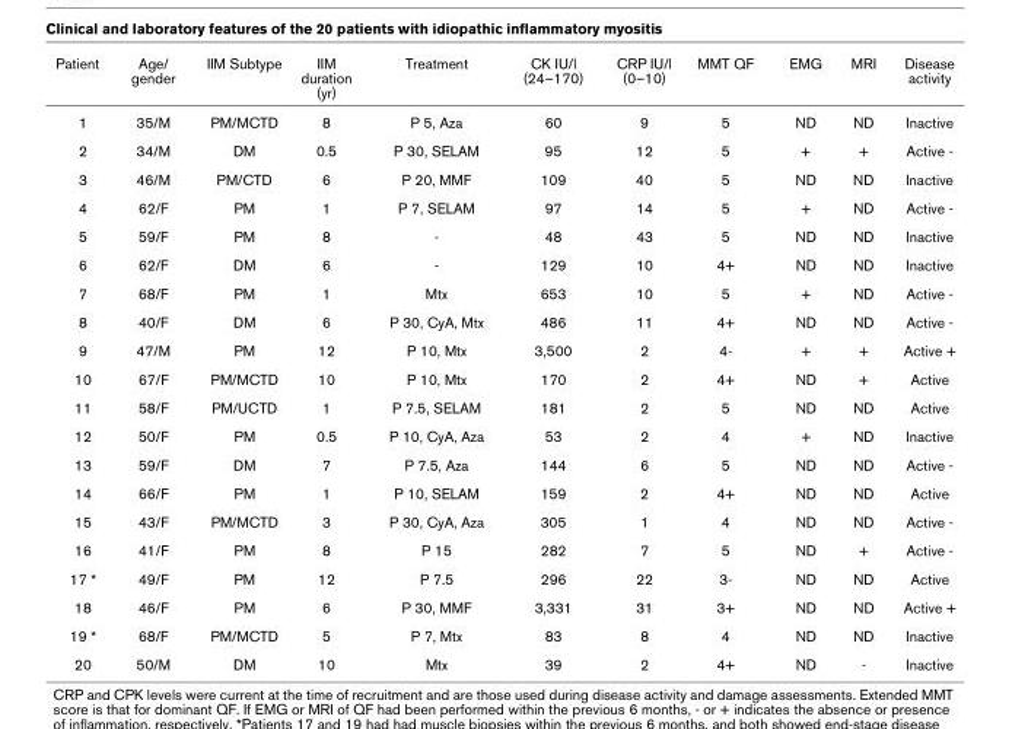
<table><thead><tr><td>Patient</td><td>Age/ gender</td><td>IIM Subtype</td><td>IIM duration (yr)</td><td>Treatment</td><td>CK IU/l (24–170)</td><td>CRP IU/l (0–10)</td><td>MMT QF</td><td>EMG</td><td>MRI</td><td>Disease activity</td></tr></thead><tbody><tr><td>1</td><td>35/M</td><td>PM/MCTD</td><td>8</td><td>P 5, Aza</td><td>60</td><td>9</td><td>5</td><td>ND</td><td>ND</td><td>Inactive</td></tr><tr><td>2</td><td>34/M</td><td>DM</td><td>0.5</td><td>P 30, SELAM</td><td>95</td><td>12</td><td>5</td><td>+</td><td>+</td><td>Active -</td></tr><tr><td>3</td><td>46/M</td><td>PM/CTD</td><td>6</td><td>P 20, MMF</td><td>109</td><td>40</td><td>5</td><td>ND</td><td>ND</td><td>Inactive</td></tr><tr><td>4</td><td>62/F</td><td>PM</td><td>1</td><td>P 7, SELAM</td><td>97</td><td>14</td><td>5</td><td>+</td><td>ND</td><td>Active -</td></tr><tr><td>5</td><td>59/F</td><td>PM</td><td>8</td><td>-</td><td>48</td><td>43</td><td>5</td><td>ND</td><td>ND</td><td>Inactive</td></tr><tr><td>6</td><td>62/F</td><td>DM</td><td>6</td><td>-</td><td>129</td><td>10</td><td>4+</td><td>ND</td><td>ND</td><td>Inactive</td></tr><tr><td>7</td><td>68/F</td><td>PM</td><td>1</td><td>Mtx</td><td>653</td><td>10</td><td>5</td><td>+</td><td>ND</td><td>Active -</td></tr><tr><td>8</td><td>40/F</td><td>DM</td><td>6</td><td>P 30, CyA, Mtx</td><td>486</td><td>11</td><td>4+</td><td>ND</td><td>ND</td><td>Active -</td></tr><tr><td>9</td><td>47/M</td><td>PM</td><td>12</td><td>P 10, Mtx</td><td>3,500</td><td>2</td><td>4-</td><td>+</td><td>+</td><td>Active +</td></tr><tr><td>10</td><td>67/F</td><td>PM/MCTD</td><td>10</td><td>P 10, Mtx</td><td>170</td><td>2</td><td>4+</td><td>ND</td><td>+</td><td>Active</td></tr><tr><td>11</td><td>58/F</td><td>PM/UCTD</td><td>1</td><td>P 7.5, SELAM</td><td>181</td><td>2</td><td>5</td><td>ND</td><td>ND</td><td>Active</td></tr><tr><td>12</td><td>50/F</td><td>PM</td><td>0.5</td><td>P 10, CyA, Aza</td><td>53</td><td>2</td><td>4</td><td>+</td><td>ND</td><td>Inactive</td></tr><tr><td>13</td><td>59/F</td><td>DM</td><td>7</td><td>P 7.5, Aza</td><td>144</td><td>6</td><td>5</td><td>ND</td><td>ND</td><td>Active -</td></tr><tr><td>14</td><td>66/F</td><td>PM</td><td>1</td><td>P 10, SELAM</td><td>159</td><td>2</td><td>4+</td><td>ND</td><td>ND</td><td>Active</td></tr><tr><td>15</td><td>43/F</td><td>PM/MCTD</td><td>3</td><td>P 30, CyA, Aza</td><td>305</td><td>1</td><td>4</td><td>ND</td><td>ND</td><td>Active -</td></tr><tr><td>16</td><td>41/F</td><td>PM</td><td>8</td><td>P 15</td><td>282</td><td>7</td><td>5</td><td>ND</td><td>+</td><td>Active -</td></tr><tr><td>17 *</td><td>49/F</td><td>PM</td><td>12</td><td>P 7.5</td><td>296</td><td>22</td><td>3-</td><td>ND</td><td>ND</td><td>Active</td></tr><tr><td>18</td><td>46/F</td><td>PM</td><td>6</td><td>P 30, MMF</td><td>3,331</td><td>31</td><td>3+</td><td>ND</td><td>ND</td><td>Active +</td></tr><tr><td>19 *</td><td>68/F</td><td>PM/MCTD</td><td>5</td><td>P 7, Mtx</td><td>83</td><td>8</td><td>4</td><td>ND</td><td>ND</td><td>Inactive</td></tr><tr><td>20</td><td>50/M</td><td>DM</td><td>10</td><td>Mtx</td><td>39</td><td>2</td><td>4+</td><td>ND</td><td>-</td><td>Inactive</td></tr></tbody></table>